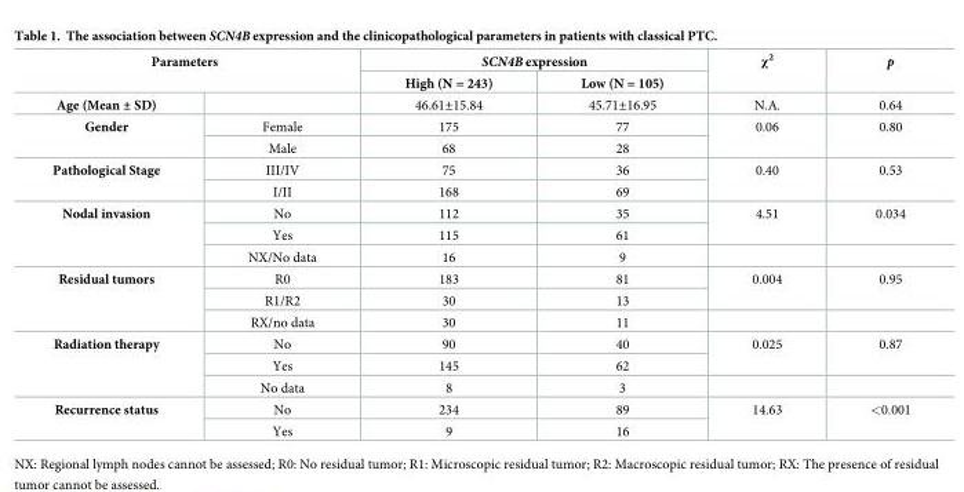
<table><thead><tr><td rowspan="2" colspan="2">Parameters</td><td colspan="2">SCN4B expression</td><td rowspan="3">χ<sup>2</sup> N.A.</td><td rowspan="3">p 0.64</td></tr><tr><td rowspan="2">High (N = 243) 46.61±15.84</td><td rowspan="2">Low (N = 105) 45.71±16.95</td></tr><tr><td>Age (Mean ± SD)</td><td></td></tr></thead><tbody><tr><td rowspan="2">Gender</td><td>Female</td><td>175</td><td>77</td><td rowspan="2">0.06</td><td rowspan="2">0.80</td></tr><tr><td>Male</td><td>68</td><td>28</td></tr><tr><td rowspan="2">Pathological Stage</td><td>III/IV</td><td>75</td><td>36</td><td rowspan="2">0.40</td><td rowspan="2">0.53</td></tr><tr><td>I/II</td><td>168</td><td>69</td></tr><tr><td rowspan="3">Nodal invasion</td><td>No</td><td>112</td><td>35</td><td rowspan="2">4.51</td><td rowspan="2">0.034</td></tr><tr><td>Yes</td><td>115</td><td>61</td></tr><tr><td>NX/No data</td><td>16</td><td>9</td><td></td><td></td></tr><tr><td rowspan="3">Residual tumors</td><td>R0</td><td>183</td><td>81</td><td rowspan="2">0.004</td><td rowspan="2">0.95</td></tr><tr><td>R1/R2</td><td>30</td><td>13</td></tr><tr><td>RX/no data</td><td>30</td><td>11</td><td></td><td></td></tr><tr><td rowspan="3">Radiation therapy</td><td>No</td><td>90</td><td>40</td><td rowspan="2">0.025</td><td rowspan="2">0.87</td></tr><tr><td>Yes</td><td>145</td><td>62</td></tr><tr><td>No data</td><td>8</td><td>3</td><td></td><td></td></tr><tr><td rowspan="2">Recurrence status</td><td>No</td><td>234</td><td>89</td><td rowspan="2">14.63</td><td rowspan="2">&lt;0.001</td></tr><tr><td>Yes</td><td>9</td><td>16</td></tr></tbody></table>